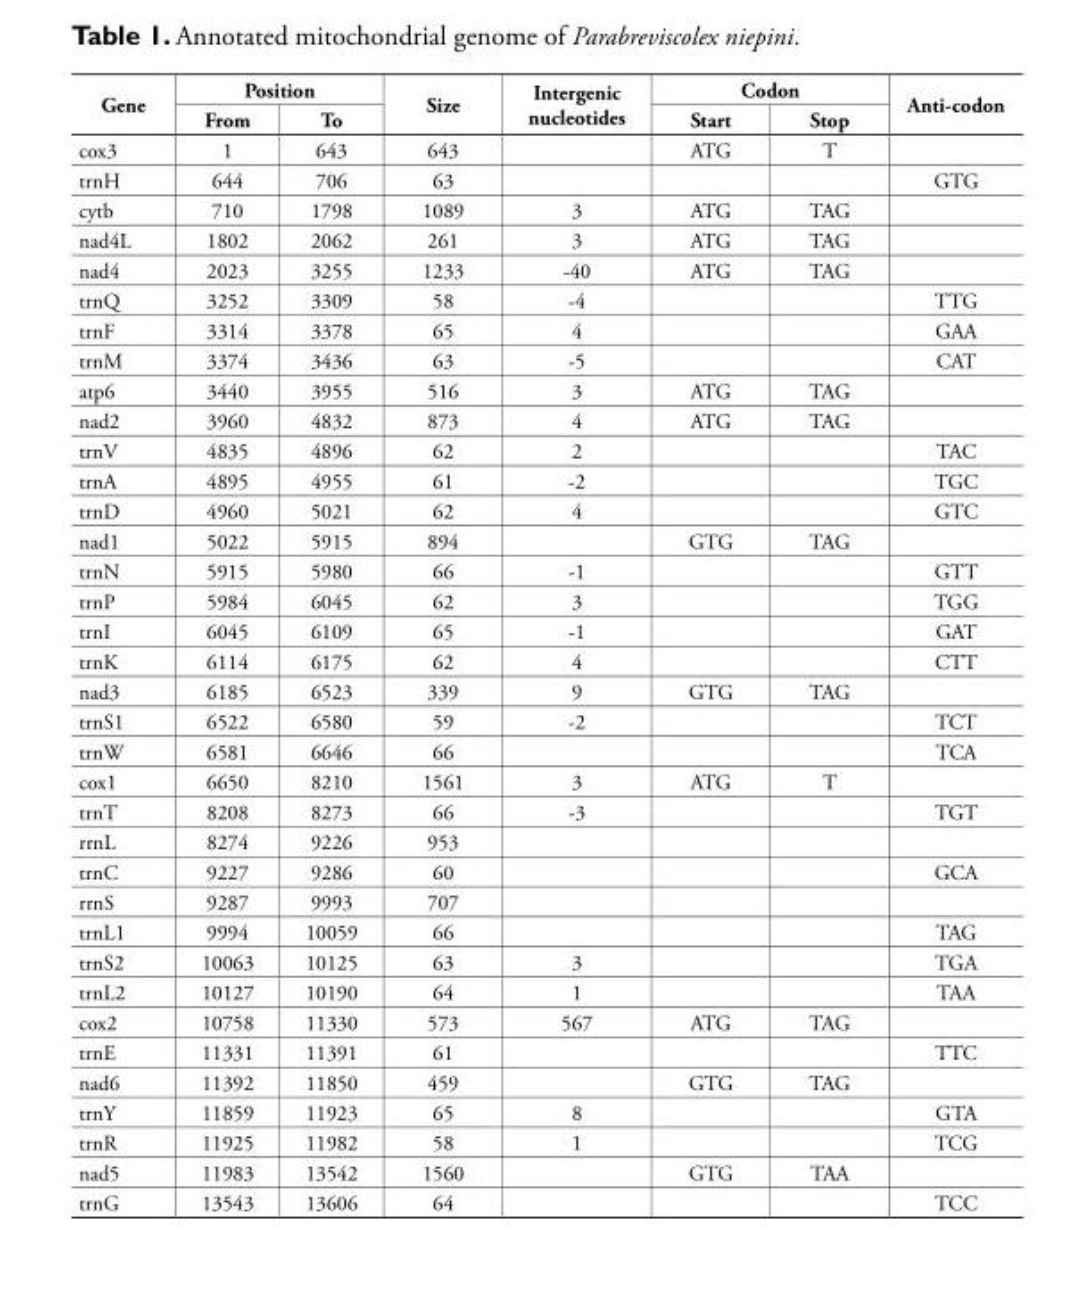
<table><thead><tr><td rowspan="2">Gene</td><td colspan="2">Position</td><td rowspan="2">Size</td><td rowspan="2">Intergenic nucleotides</td><td colspan="2">Codon</td><td rowspan="2">Anti-codon</td></tr><tr><td>From</td><td>To</td><td>Start</td><td>Stop</td></tr></thead><tbody><tr><td>cox3</td><td>1</td><td>643</td><td>643</td><td></td><td>ATG</td><td>T</td><td></td></tr><tr><td>trnH</td><td>644</td><td>706</td><td>63</td><td></td><td></td><td></td><td>GTG</td></tr><tr><td>cytb</td><td>710</td><td>1798</td><td>1089</td><td>3</td><td>ATG</td><td>TAG</td><td></td></tr><tr><td>nad4L</td><td>1802</td><td>2062</td><td>261</td><td>3</td><td>ATG</td><td>TAG</td><td></td></tr><tr><td>nad4</td><td>2023</td><td>3255</td><td>1233</td><td>-40</td><td>ATG</td><td>TAG</td><td></td></tr><tr><td>trnQ</td><td>3252</td><td>3309</td><td>58</td><td>-4</td><td></td><td></td><td>TTG</td></tr><tr><td>trnF</td><td>3314</td><td>3378</td><td>65</td><td>4</td><td></td><td></td><td>GAA</td></tr><tr><td>trnM</td><td>3374</td><td>3436</td><td>63</td><td>-5</td><td></td><td></td><td>CAT</td></tr><tr><td>atp6</td><td>3440</td><td>3955</td><td>516</td><td>3</td><td>ATG</td><td>TAG</td><td></td></tr><tr><td>nad2</td><td>3960</td><td>4832</td><td>873</td><td>4</td><td>ATG</td><td>TAG</td><td></td></tr><tr><td>trnV</td><td>4835</td><td>4896</td><td>62</td><td>2</td><td></td><td></td><td>TAC</td></tr><tr><td>trnA</td><td>4895</td><td>4955</td><td>61</td><td>-2</td><td></td><td></td><td>TGC</td></tr><tr><td>trnD</td><td>4960</td><td>5021</td><td>62</td><td>4</td><td></td><td></td><td>GTC</td></tr><tr><td>nad1</td><td>5022</td><td>5915</td><td>894</td><td></td><td>GTG</td><td>TAG</td><td></td></tr><tr><td>trnN</td><td>5915</td><td>5980</td><td>66</td><td>-1</td><td></td><td></td><td>GTT</td></tr><tr><td>trnP</td><td>5984</td><td>6045</td><td>62</td><td>3</td><td></td><td></td><td>TGG</td></tr><tr><td>trnI</td><td>6045</td><td>6109</td><td>65</td><td>-1</td><td></td><td></td><td>GAT</td></tr><tr><td>trnK</td><td>6114</td><td>6175</td><td>62</td><td>4</td><td></td><td></td><td>CTT</td></tr><tr><td>nad3</td><td>6185</td><td>6523</td><td>339</td><td>9</td><td>GTG</td><td>TAG</td><td></td></tr><tr><td>trnS1</td><td>6522</td><td>6580</td><td>59</td><td>-2</td><td></td><td></td><td>TCT</td></tr><tr><td>trnW</td><td>6581</td><td>6646</td><td>66</td><td></td><td></td><td></td><td>TCA</td></tr><tr><td>cox1</td><td>6650</td><td>8210</td><td>1561</td><td>3</td><td>ATG</td><td>T</td><td></td></tr><tr><td>trnT</td><td>8208</td><td>8273</td><td>66</td><td>-3</td><td></td><td></td><td>TGT</td></tr><tr><td>rrnL</td><td>8274</td><td>9226</td><td>953</td><td></td><td></td><td></td><td></td></tr><tr><td>trnC</td><td>9227</td><td>9286</td><td>60</td><td></td><td></td><td></td><td>GCA</td></tr><tr><td>rrnS</td><td>9287</td><td>9993</td><td>707</td><td></td><td></td><td></td><td></td></tr><tr><td>trnL1</td><td>9994</td><td>10059</td><td>66</td><td></td><td></td><td></td><td>TAG</td></tr><tr><td>trnS2</td><td>10063</td><td>10125</td><td>63</td><td>3</td><td></td><td></td><td>TGA</td></tr><tr><td>trnL2</td><td>10127</td><td>10190</td><td>64</td><td>1</td><td></td><td></td><td>TAA</td></tr><tr><td>cox2</td><td>10758</td><td>11330</td><td>573</td><td>567</td><td>ATG</td><td>TAG</td><td></td></tr><tr><td>trnE</td><td>11331</td><td>11391</td><td>61</td><td></td><td></td><td></td><td>TTC</td></tr><tr><td>nad6</td><td>11392</td><td>11850</td><td>459</td><td></td><td>GTG</td><td>TAG</td><td></td></tr><tr><td>trnY</td><td>11859</td><td>11923</td><td>65</td><td>8</td><td></td><td></td><td>GTA</td></tr><tr><td>trnR</td><td>11925</td><td>11982</td><td>58</td><td>1</td><td></td><td></td><td>TCG</td></tr><tr><td>nad5</td><td>11983</td><td>13542</td><td>1560</td><td></td><td>GTG</td><td>TAA</td><td></td></tr><tr><td>trnG</td><td>13543</td><td>13606</td><td>64</td><td></td><td></td><td></td><td>TCC</td></tr></tbody></table>